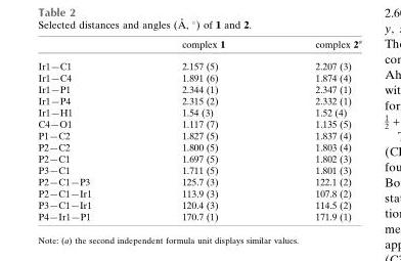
<table><thead><tr><td></td><td>complex 1</td><td>complex 2<sup>a</sup></td></tr></thead><tbody><tr><td>Ir1—C1</td><td>2.157 (5)</td><td>2.207 (3)</td></tr><tr><td>Ir1—C4</td><td>1.891 (6)</td><td>1.874 (4)</td></tr><tr><td>Ir1—P1</td><td>2.344 (1)</td><td>2.347 (1)</td></tr><tr><td>Ir1—P4</td><td>2.315 (2)</td><td>2.332 (1)</td></tr><tr><td>Ir1—H1</td><td>1.54 (3)</td><td>1.52 (4)</td></tr><tr><td>C4—O1</td><td>1.117 (7)</td><td>1.135 (5)</td></tr><tr><td>P1—C2</td><td>1.827 (5)</td><td>1.837 (4)</td></tr><tr><td>P2—C2</td><td>1.800 (5)</td><td>1.803 (4)</td></tr><tr><td>P2—C1</td><td>1.697 (5)</td><td>1.802 (3)</td></tr><tr><td>P3—C1</td><td>1.711 (5)</td><td>1.801 (3)</td></tr><tr><td>P2—C1—P3</td><td>125.7 (3)</td><td>122.1 (2)</td></tr><tr><td>P2—C1—Ir1</td><td>113.9 (3)</td><td>107.8 (2)</td></tr><tr><td>P3—C1—Ir1</td><td>120.4 (3)</td><td>114.5 (2)</td></tr><tr><td>P4—Ir1—P1</td><td>170.7 (1)</td><td>171.9 (1)</td></tr></tbody></table>